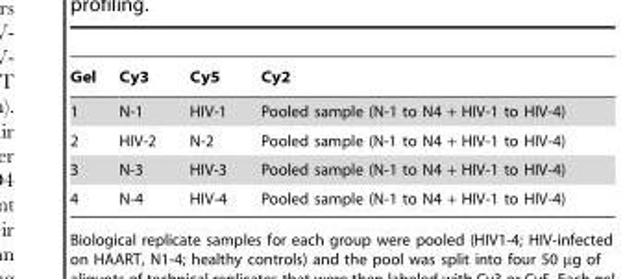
<table><thead><tr><td>Gel</td><td>Cy3</td><td>Cy5</td><td>Cy2</td></tr></thead><tbody><tr><td>1</td><td>N-1</td><td>HIV-1</td><td>Pooled sample (N-1 to N4 + HIV-1 to HIV-4)</td></tr><tr><td>2</td><td>HIV-2</td><td>N-2</td><td>Pooled sample (N-1 to N4 + HIV-1 to HIV-4)</td></tr><tr><td>3</td><td>N-3</td><td>HIV-3</td><td>Pooled sample (N-1 to N4 + HIV-1 to HIV-4)</td></tr><tr><td>4</td><td>N-4</td><td>HIV-4</td><td>Pooled sample (N-1 to N4 + HIV-1 to HIV-4)</td></tr></tbody></table>